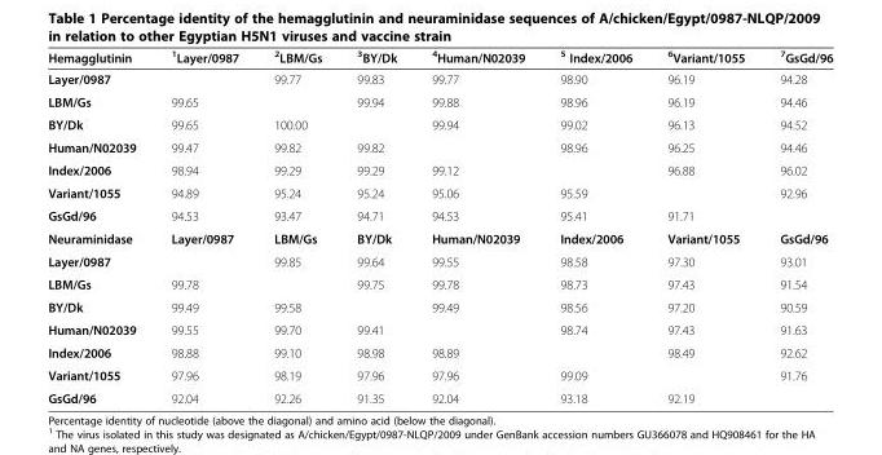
<table><thead><tr><td>Hemagglutinin</td><td><sup>1</sup>Layer/0987</td><td><sup>2</sup>LBM/Gs</td><td><sup>3</sup>BY/Dk</td><td><sup>4</sup>Human/N02039</td><td><sup>5</sup> Index/2006</td><td><sup>6</sup>Variant/1055</td><td><sup>7</sup>GsGd/96</td></tr></thead><tbody><tr><td>Layer/0987</td><td></td><td>99.77</td><td>99.83</td><td>99.77</td><td>98.90</td><td>96.19</td><td>94.28</td></tr><tr><td>LBM/Gs</td><td>99.65</td><td></td><td>99.94</td><td>99.88</td><td>98.96</td><td>96.19</td><td>94.46</td></tr><tr><td>BY/Dk</td><td>99.65</td><td>100.00</td><td></td><td>99.94</td><td>99.02</td><td>96.13</td><td>94.52</td></tr><tr><td>Human/N02039</td><td>99.47</td><td>99.82</td><td>99.82</td><td></td><td>98.96</td><td>96.25</td><td>94.46</td></tr><tr><td>Index/2006</td><td>98.94</td><td>99.29</td><td>99.29</td><td>99.12</td><td></td><td>96.88</td><td>96.02</td></tr><tr><td>Variant/1055</td><td>94.89</td><td>95.24</td><td>95.24</td><td>95.06</td><td>95.59</td><td></td><td>92.96</td></tr><tr><td>GsGd/96</td><td>94.53</td><td>93.47</td><td>94.71</td><td>94.53</td><td>95.41</td><td>91.71</td><td></td></tr><tr><td>Neuraminidase</td><td>Layer/0987</td><td>LBM/Gs</td><td>BY/Dk</td><td>Human/N02039</td><td>Index/2006</td><td>Variant/1055</td><td>GsGd/96</td></tr><tr><td>Layer/0987</td><td></td><td>99.85</td><td>99.64</td><td>99.55</td><td>98.58</td><td>97.30</td><td>93.01</td></tr><tr><td>LBM/Gs</td><td>99.78</td><td></td><td>99.75</td><td>99.78</td><td>98.73</td><td>97.43</td><td>91.54</td></tr><tr><td>BY/Dk</td><td>99.49</td><td>99.58</td><td></td><td>99.49</td><td>98.56</td><td>97.20</td><td>90.59</td></tr><tr><td>Human/N02039</td><td>99.55</td><td>99.70</td><td>99.41</td><td></td><td>98.74</td><td>97.43</td><td>91.63</td></tr><tr><td>Index/2006</td><td>98.88</td><td>99.10</td><td>98.98</td><td>98.89</td><td></td><td>98.49</td><td>92.62</td></tr><tr><td>Variant/1055</td><td>97.96</td><td>98.19</td><td>97.96</td><td>97.96</td><td>99.09</td><td></td><td>91.76</td></tr><tr><td>GsGd/96</td><td>92.04</td><td>92.26</td><td>91.35</td><td>92.04</td><td>93.18</td><td>92.19</td><td></td></tr></tbody></table>